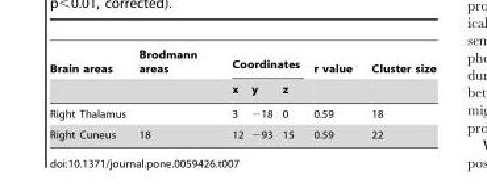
<table><thead><tr><td rowspan="2">Brain areas</td><td rowspan="2">Brodmann areas</td><td colspan="3">Coordinates</td><td rowspan="2">r value</td><td rowspan="2">Cluster size</td></tr><tr><td>x</td><td>y</td><td>z</td></tr></thead><tbody><tr><td>Right Thalamus</td><td></td><td>3</td><td>−18</td><td>0</td><td>0.59</td><td>18</td></tr><tr><td>Right Cuneus</td><td>18</td><td>12</td><td>−93</td><td>15</td><td>0.59</td><td>22</td></tr></tbody></table>